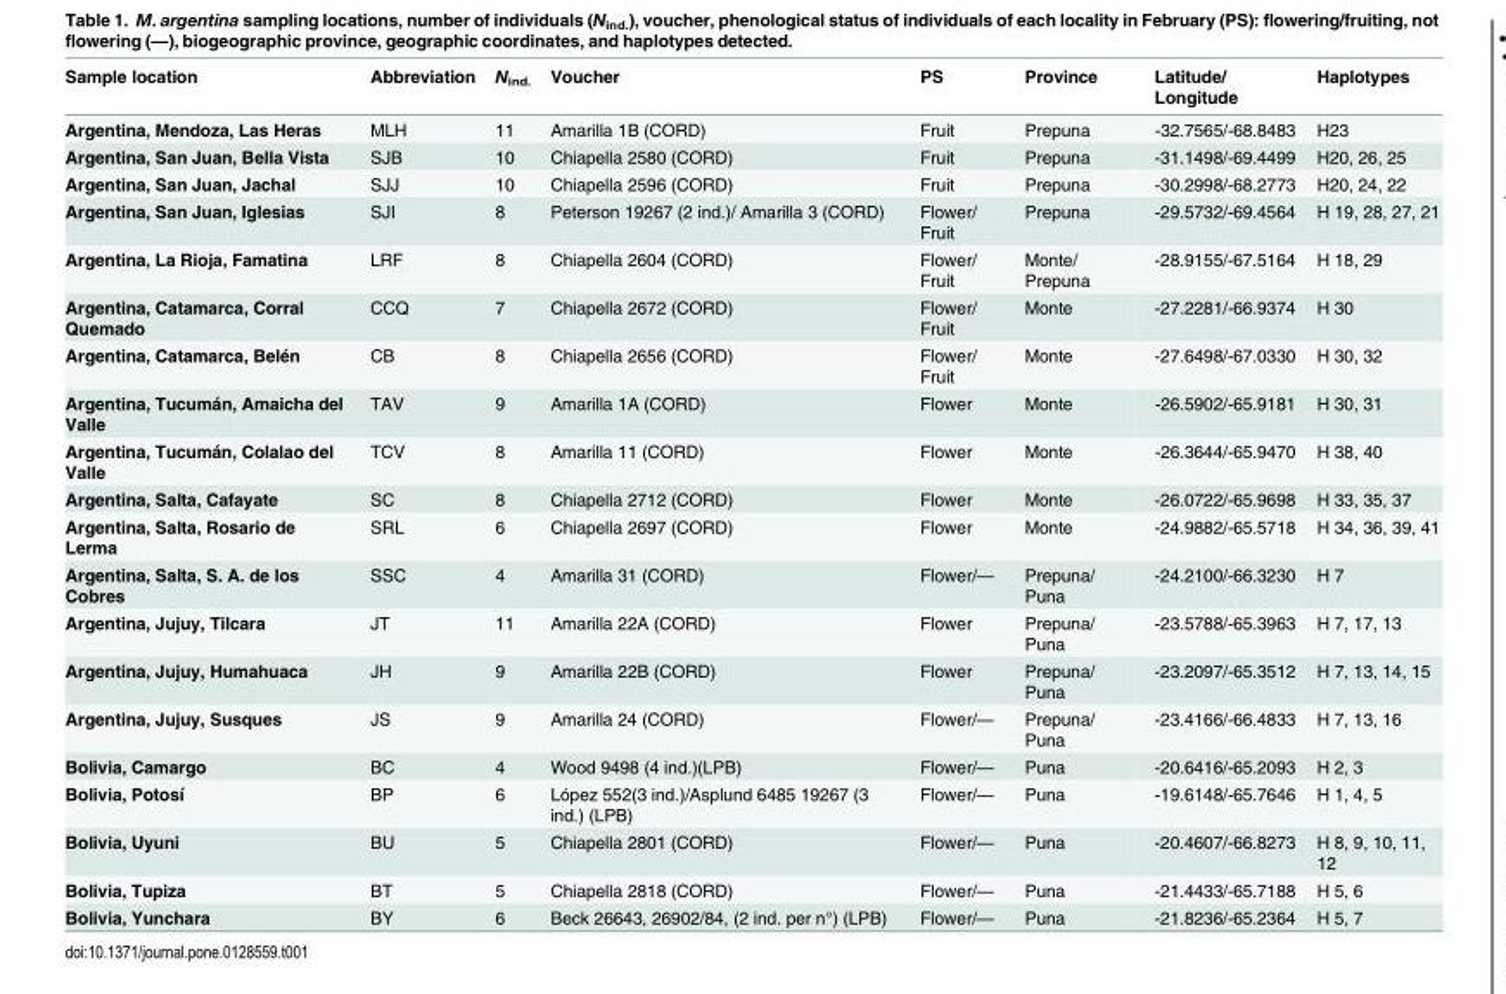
<table><thead><tr><td>Sample location</td><td>Abbreviation</td><td>N<sub>ind.</sub></td><td>Voucher</td><td>PS</td><td>Province</td><td>Latitude/ Longitude</td><td>Haplotypes</td></tr></thead><tbody><tr><td>Argentina, Mendoza, Las Heras</td><td>MLH</td><td>11</td><td>Amarilla 1B (CORD)</td><td>Fruit</td><td>Prepuna</td><td>-32.7565/-68.8483</td><td>H23</td></tr><tr><td>Argentina, San Juan, Bella Vista</td><td>SJB</td><td>10</td><td>Chiapella 2580 (CORD)</td><td>Fruit</td><td>Prepuna</td><td>-31.1498/-69.4499</td><td>H20, 26, 25</td></tr><tr><td>Argentina, San Juan, Jachal</td><td>SJJ</td><td>10</td><td>Chiapella 2596 (CORD)</td><td>Fruit</td><td>Prepuna</td><td>-30.2998/-68.2773</td><td>H20, 24, 22</td></tr><tr><td>Argentina, San Juan, Iglesias</td><td>SJI</td><td>8</td><td>Peterson 19267 (2 ind.)/ Amarilla 3 (CORD)</td><td>Flower/ Fruit</td><td>Prepuna</td><td>-29.5732/-69.4564</td><td>H 19, 28, 27, 21</td></tr><tr><td>Argentina, La Rioja, Famatina</td><td>LRF</td><td>8</td><td>Chiapella 2604 (CORD)</td><td>Flower/ Fruit</td><td>Monte/ Prepuna</td><td>-28.9155/-67.5164</td><td>H 18, 29</td></tr><tr><td>Argentina, Catamarca, Corral Quemado</td><td>CCQ</td><td>7</td><td>Chiapella 2672 (CORD)</td><td>Flower/ Fruit</td><td>Monte</td><td>-27.2281/-66.9374</td><td>H 30</td></tr><tr><td>Argentina, Catamarca, Belén</td><td>CB</td><td>8</td><td>Chiapella 2656 (CORD)</td><td>Flower/ Fruit</td><td>Monte</td><td>-27.6498/-67.0330</td><td>H 30, 32</td></tr><tr><td>Argentina, Tucumán, Amaicha del Valle</td><td>TAV</td><td>9</td><td>Amarilla 1A (CORD)</td><td>Flower</td><td>Monte</td><td>-26.5902/-65.9181</td><td>H 30, 31</td></tr><tr><td>Argentina, Tucumán, Colalao del Valle</td><td>TCV</td><td>8</td><td>Amarilla 11 (CORD)</td><td>Flower</td><td>Monte</td><td>-26.3644/-65.9470</td><td>H 38, 40</td></tr><tr><td>Argentina, Salta, Cafayate</td><td>SC</td><td>8</td><td>Chiapella 2712 (CORD)</td><td>Flower</td><td>Monte</td><td>-26.0722/-65.9698</td><td>H 33, 35, 37</td></tr><tr><td>Argentina, Salta, Rosario de Lerma</td><td>SRL</td><td>6</td><td>Chiapella 2697 (CORD)</td><td>Flower</td><td>Monte</td><td>-24.9882/-65.5718</td><td>H 34, 36, 39, 41</td></tr><tr><td>Argentina, Salta, S. A. de los Cobres</td><td>SSC</td><td>4</td><td>Amarilla 31 (CORD)</td><td>Flower/—</td><td>Prepuna/ Puna</td><td>-24.2100/-66.3230</td><td>H 7</td></tr><tr><td>Argentina, Jujuy, Tilcara</td><td>JT</td><td>11</td><td>Amarilla 22A (CORD)</td><td>Flower</td><td>Prepuna/ Puna</td><td>-23.5788/-65.3963</td><td>H 7, 17, 13</td></tr><tr><td>Argentina, Jujuy, Humahuaca</td><td>JH</td><td>9</td><td>Amarilla 22B (CORD)</td><td>Flower</td><td>Prepuna/ Puna</td><td>-23.2097/-65.3512</td><td>H 7, 13, 14, 15</td></tr><tr><td>Argentina, Jujuy, Susques</td><td>JS</td><td>9</td><td>Amarilla 24 (CORD)</td><td>Flower/—</td><td>Prepuna/ Puna</td><td>-23.4166/-66.4833</td><td>H 7, 13, 16</td></tr><tr><td>Bolivia, Camargo</td><td>BC</td><td>4</td><td>Wood 9498 (4 ind.)(LPB)</td><td>Flower/—</td><td>Puna</td><td>-20.6416/-65.2093</td><td>H 2, 3</td></tr><tr><td>Bolivia, Potosí</td><td>BP</td><td>6</td><td>López 552(3 ind.)/Asplund 6485 19267 (3 ind.) (LPB)</td><td>Flower/—</td><td>Puna</td><td>-19.6148/-65.7646</td><td>H 1, 4, 5</td></tr><tr><td>Bolivia, Uyuni</td><td>BU</td><td>5</td><td>Chiapella 2801 (CORD)</td><td>Flower/—</td><td>Puna</td><td>-20.4607/-66.8273</td><td>H 8, 9, 10, 11, 12</td></tr><tr><td>Bolivia, Tupiza</td><td>BT</td><td>5</td><td>Chiapella 2818 (CORD)</td><td>Flower/—</td><td>Puna</td><td>-21.4433/-65.7188</td><td>H 5, 6</td></tr><tr><td>Bolivia, Yunchara</td><td>BY</td><td>6</td><td>Beck 26643, 26902/84, (2 ind. per n°) (LPB)</td><td>Flower/—</td><td>Puna</td><td>-21.8236/-65.2364</td><td>H 5, 7</td></tr></tbody></table>